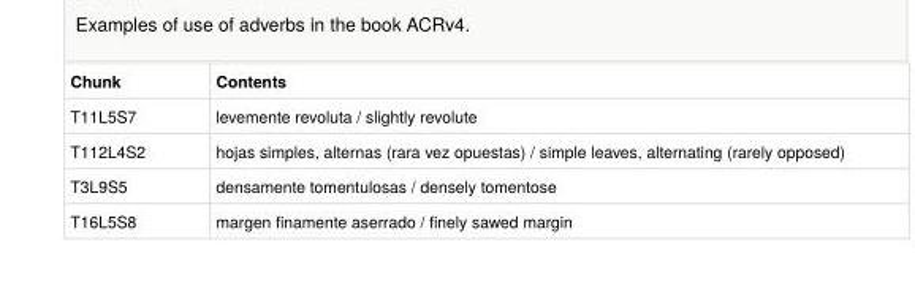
<table><tbody><tr><td>Chunk</td><td>Contents</td></tr><tr><td>T11L5S7</td><td>levemente revoluta / slightly revolute</td></tr><tr><td>T112L4S2</td><td>hojas simples, alternas (rara vez opuestas) / simple leaves, alternating (rarely opposed)</td></tr><tr><td>T3L9S5</td><td>densamente tomentulosas / densely tomentose</td></tr><tr><td>T16L5S8</td><td>margen finamente aserrado / finely sawed margin</td></tr></tbody></table>